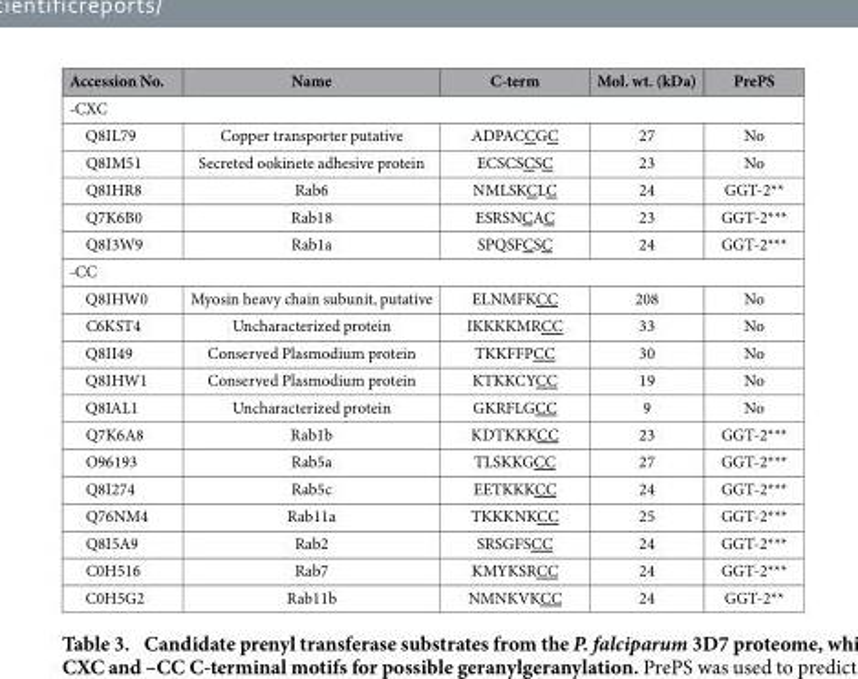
<table><thead><tr><td>Accession No.</td><td>Name</td><td>C-term</td><td>Mol. wt. (kDa)</td><td>PrePS</td></tr></thead><tbody><tr><td colspan="5">-CXC</td></tr><tr><td>Q8IL79</td><td>Copper transporter putative</td><td>ADPACCGC</td><td>27</td><td>No</td></tr><tr><td>Q8IM51</td><td>Secreted ookinete adhesive protein</td><td>ECSCSCSC</td><td>23</td><td>No</td></tr><tr><td>Q8IHR8</td><td>Rab6</td><td>NMLSKCLC</td><td>24</td><td>GGT-2**</td></tr><tr><td>Q7K6B0</td><td>Rab18</td><td>ESRSNCAC</td><td>23</td><td>GGT-2***</td></tr><tr><td>Q8I3W9</td><td>Rab1a</td><td>SPQSFCSC</td><td>24</td><td>GGT-2***</td></tr><tr><td colspan="5">-CC</td></tr><tr><td>Q8IHW0</td><td>Myosin heavy chain subunit, putative</td><td>ELNMFKCC</td><td>208</td><td>No</td></tr><tr><td>C6KST4</td><td>Uncharacterized protein</td><td>IKKKKMRCC</td><td>33</td><td>No</td></tr><tr><td>Q8II49</td><td>Conserved Plasmodium protein</td><td>TKKFFPCC</td><td>30</td><td>No</td></tr><tr><td>Q8IHW1</td><td>Conserved Plasmodium protein</td><td>KTKKCYCC</td><td>19</td><td>No</td></tr><tr><td>Q8IAL1</td><td>Uncharacterized protein</td><td>GKRFLGCC</td><td>9</td><td>No</td></tr><tr><td>Q7K6A8</td><td>Rab1b</td><td>KDTKKKCC</td><td>23</td><td>GGT-2***</td></tr><tr><td>O96193</td><td>Rab5a</td><td>TLSKKGCC</td><td>27</td><td>GGT-2***</td></tr><tr><td>Q8I274</td><td>Rab5c</td><td>EETKKKCC</td><td>24</td><td>GGT-2***</td></tr><tr><td>Q76NM4</td><td>Rab11a</td><td>TKKKNKCC</td><td>25</td><td>GGT-2***</td></tr><tr><td>Q8I5A9</td><td>Rab2</td><td>SRSGFSCC</td><td>24</td><td>GGT-2***</td></tr><tr><td>C0H516</td><td>Rab7</td><td>KMYKSRCC</td><td>24</td><td>GGT-2***</td></tr><tr><td>C0H5G2</td><td>Rab11b</td><td>NMNKVKCC</td><td>24</td><td>GGT-2**</td></tr></tbody></table>